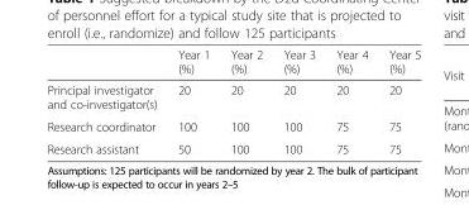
<table><thead><tr><td></td><td>Year 1 (%)</td><td>Year 2 (%)</td><td>Year 3 (%)</td><td>Year 4 (%)</td><td>Year 5 (%)</td></tr></thead><tbody><tr><td>Principal investigator and co-investigator(s)</td><td>20</td><td>20</td><td>20</td><td>20</td><td>20</td></tr><tr><td>Research coordinator</td><td>100</td><td>100</td><td>100</td><td>75</td><td>75</td></tr><tr><td>Research assistant</td><td>50</td><td>100</td><td>100</td><td>75</td><td>75</td></tr></tbody></table>